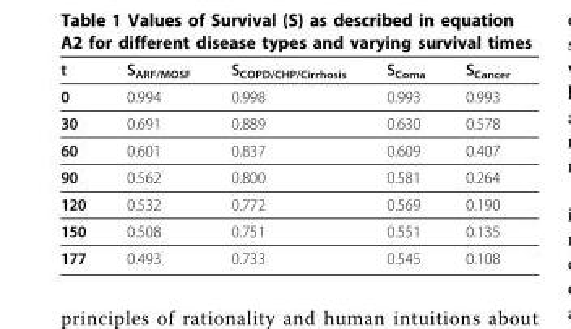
<table><thead><tr><td>t</td><td>S<sub>ARF/MOSF</sub></td><td>S<sub>COPD/CHP/Cirrhosis</sub></td><td>S<sub>Coma</sub></td><td>S<sub>Cancer</sub></td></tr></thead><tbody><tr><td>0</td><td>0.994</td><td>0.998</td><td>0.993</td><td>0.993</td></tr><tr><td>30</td><td>0.691</td><td>0.889</td><td>0.630</td><td>0.578</td></tr><tr><td>60</td><td>0.601</td><td>0.837</td><td>0.609</td><td>0.407</td></tr><tr><td>90</td><td>0.562</td><td>0.800</td><td>0.581</td><td>0.264</td></tr><tr><td>120</td><td>0.532</td><td>0.772</td><td>0.569</td><td>0.190</td></tr><tr><td>150</td><td>0.508</td><td>0.751</td><td>0.551</td><td>0.135</td></tr><tr><td>177</td><td>0.493</td><td>0.733</td><td>0.545</td><td>0.108</td></tr></tbody></table>